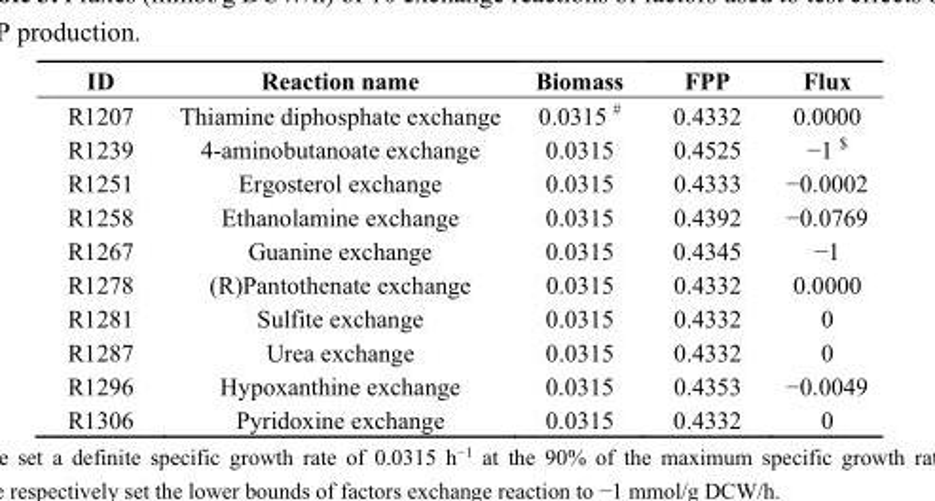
<table><thead><tr><td>ID</td><td>Reaction name</td><td>Biomass</td><td>FPP</td><td>Flux</td></tr></thead><tbody><tr><td>R1207</td><td>Thiamine diphosphate exchange</td><td>0.0315 <sup>#</sup></td><td>0.4332</td><td>0.0000</td></tr><tr><td>R1239</td><td>4-aminobutanoate exchange</td><td>0.0315</td><td>0.4525</td><td>−1 <sup>$</sup></td></tr><tr><td>R1251</td><td>Ergosterol exchange</td><td>0.0315</td><td>0.4333</td><td>−0.0002</td></tr><tr><td>R1258</td><td>Ethanolamine exchange</td><td>0.0315</td><td>0.4392</td><td>−0.0769</td></tr><tr><td>R1267</td><td>Guanine exchange</td><td>0.0315</td><td>0.4345</td><td>−1</td></tr><tr><td>R1278</td><td>(R)Pantothenate exchange</td><td>0.0315</td><td>0.4332</td><td>0.0000</td></tr><tr><td>R1281</td><td>Sulfite exchange</td><td>0.0315</td><td>0.4332</td><td>0</td></tr><tr><td>R1287</td><td>Urea exchange</td><td>0.0315</td><td>0.4332</td><td>0</td></tr><tr><td>R1296</td><td>Hypoxanthine exchange</td><td>0.0315</td><td>0.4353</td><td>−0.0049</td></tr><tr><td>R1306</td><td>Pyridoxine exchange</td><td>0.0315</td><td>0.4332</td><td>0</td></tr></tbody></table>